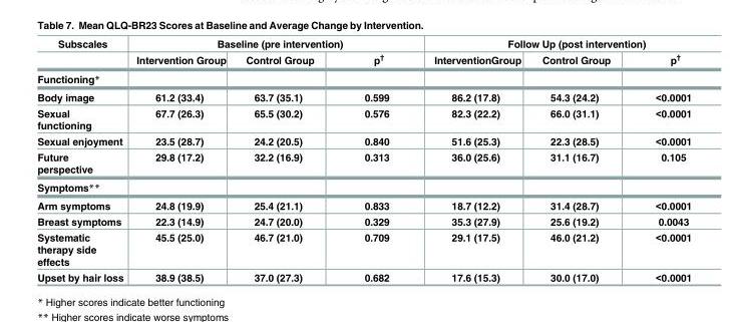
<table><thead><tr><td rowspan="2">Subscales</td><td colspan="3">Baseline (pre intervention)</td><td colspan="3">Follow Up (post intervention)</td></tr><tr><td>Intervention Group</td><td>Control Group</td><td>p<sup>†</sup></td><td>InterventionGroup</td><td>Control Group</td><td>p<sup>†</sup></td></tr></thead><tbody><tr><td colspan="7">Functioning*</td></tr><tr><td>Body image</td><td>61.2 (33.4)</td><td>63.7 (35.1)</td><td>0.599</td><td>86.2 (17.8)</td><td>54.3 (24.2)</td><td>&lt;0.0001</td></tr><tr><td>Sexual functioning</td><td>67.7 (26.3)</td><td>65.5 (30.2)</td><td>0.576</td><td>82.3 (22.2)</td><td>66.0 (31.1)</td><td>&lt;0.0001</td></tr><tr><td>Sexual enjoyment</td><td>23.5 (28.7)</td><td>24.2 (20.5)</td><td>0.840</td><td>51.6 (25.3)</td><td>22.3 (28.5)</td><td>&lt;0.0001</td></tr><tr><td>Future perspective</td><td>29.8 (17.2)</td><td>32.2 (16.9)</td><td>0.313</td><td>36.0 (25.6)</td><td>31.1 (16.7)</td><td>0.105</td></tr><tr><td colspan="7">Symptoms**</td></tr><tr><td>Arm symptoms</td><td>24.8 (19.9)</td><td>25.4 (21.1)</td><td>0.833</td><td>18.7 (12.2)</td><td>31.4 (28.7)</td><td>&lt;0.0001</td></tr><tr><td>Breast symptoms</td><td>22.3 (14.9)</td><td>24.7 (20.0)</td><td>0.329</td><td>35.3 (27.9)</td><td>25.6 (19.2)</td><td>0.0043</td></tr><tr><td>Systematic therapy side effects</td><td>45.5 (25.0)</td><td>46.7 (21.0)</td><td>0.709</td><td>29.1 (17.5)</td><td>46.0 (21.2)</td><td>&lt;0.0001</td></tr><tr><td>Upset by hair loss</td><td>38.9 (38.5)</td><td>37.0 (27.3)</td><td>0.682</td><td>17.6 (15.3)</td><td>30.0 (17.0)</td><td>&lt;0.0001</td></tr></tbody></table>